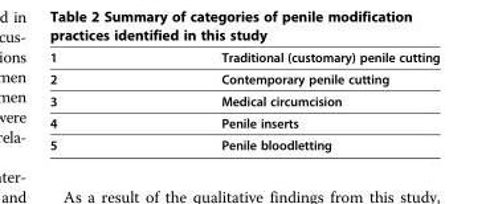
<table><thead><tr><td>1</td><td>Traditional (customary) penile cutting</td></tr></thead><tbody><tr><td>2</td><td>Contemporary penile cutting</td></tr><tr><td>3</td><td>Medical circumcision</td></tr><tr><td>4</td><td>Penile inserts</td></tr><tr><td>5</td><td>Penile bloodletting</td></tr></tbody></table>